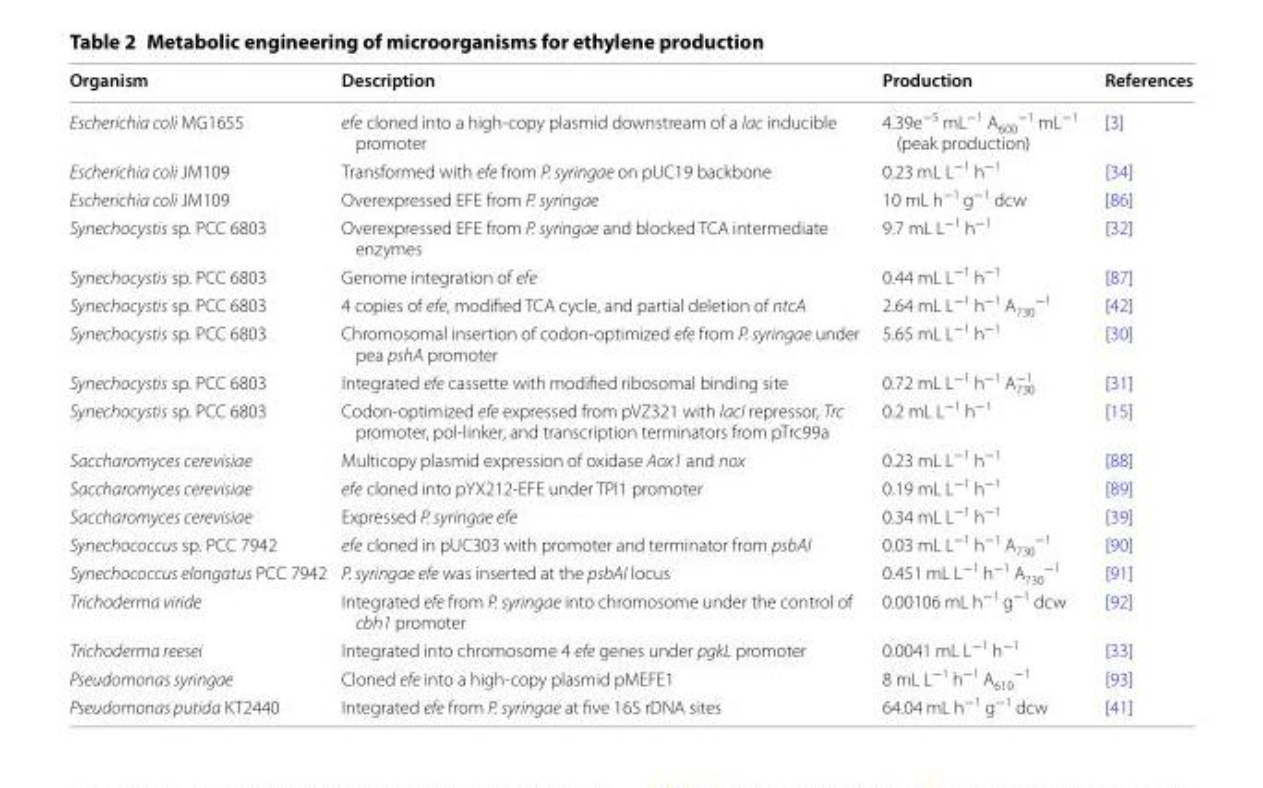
<table><thead><tr><td>Organism</td><td>Description</td><td>Production</td><td>References</td></tr></thead><tbody><tr><td>Escherichia coli MG1655</td><td>efe cloned into a high-copy plasmid downstream of a lac inducible promoter</td><td>4.39e<sup>−5</sup> mL<sup>−1</sup> A<sub>600</sub> <sup>−1</sup> mL<sup>−1</sup> (peak production)</td><td>[3]</td></tr><tr><td>Escherichia coli JM109</td><td>Transformed with efe from P. syringae on pUC19 backbone</td><td>0.23 mL L<sup>−1</sup> h<sup>−1</sup></td><td>[34]</td></tr><tr><td>Escherichia coli JM109</td><td>Overexpressed EFE from P. syringae</td><td>10 mL h<sup>−1</sup> g<sup>−1</sup> dcw</td><td>[86]</td></tr><tr><td>Synechocystis sp. PCC 6803</td><td>Overexpressed EFE from P. syringae and blocked TCA intermediate enzymes</td><td>9.7 mL L<sup>−1</sup> h<sup>−1</sup></td><td>[32]</td></tr><tr><td>Synechocystis sp. PCC 6803</td><td>Genome integration of efe</td><td>0.44 mL L<sup>−1</sup> h<sup>−1</sup></td><td>[87]</td></tr><tr><td>Synechocystis sp. PCC 6803</td><td>4 copies of efe, modified TCA cycle, and partial deletion of ntcA</td><td>2.64 mL L<sup>−1</sup> h<sup>−1</sup> A<sub>730</sub> <sup>−1</sup></td><td>[42]</td></tr><tr><td>Synechocystis sp. PCC 6803</td><td>Chromosomal insertion of codon-optimized efe from P. syringae under pea pshA promoter</td><td>5.65 mL L<sup>−1</sup> h<sup>−1</sup></td><td>[30]</td></tr><tr><td>Synechocystis sp. PCC 6803</td><td>Integrated efe cassette with modified ribosomal binding site</td><td>0.72 mL L−1 h−1 A−1 730</td><td>[31]</td></tr><tr><td>Synechocystis sp. PCC 6803</td><td>Codon-optimized efe expressed from pVZ321 with lacI repressor, Trc promoter, pol-linker, and transcription terminators from pTrc99a</td><td>0.2 mL L<sup>−1</sup> h<sup>−1</sup></td><td>[15]</td></tr><tr><td>Saccharomyces cerevisiae</td><td>Multicopy plasmid expression of oxidase Aox1 and nox</td><td>0.23 mL L<sup>−1</sup> h<sup>−1</sup></td><td>[88]</td></tr><tr><td>Saccharomyces cerevisiae</td><td>efe cloned into pYX212-EFE under TPI1 promoter</td><td>0.19 mL L<sup>−1</sup> h<sup>−1</sup></td><td>[89]</td></tr><tr><td>Saccharomyces cerevisiae</td><td>Expressed P. syringae efe</td><td>0.34 mL L<sup>−1</sup> h<sup>−1</sup></td><td>[39]</td></tr><tr><td>Synechococcus sp. PCC 7942</td><td>efe cloned in pUC303 with promoter and terminator from psbAI</td><td>0.03 mL L<sup>−1</sup> h<sup>−1</sup> A<sub>730</sub> <sup>−1</sup></td><td>[90]</td></tr><tr><td>Synechococcus elongatus PCC 7942</td><td>P. syringae efe was inserted at the psbAI locus</td><td>0.451 mL L<sup>−1</sup> h<sup>−1</sup> A<sub>730</sub> <sup>−1</sup></td><td>[91]</td></tr><tr><td>Trichoderma viride</td><td>Integrated efe from P. syringae into chromosome under the control of cbh1 promoter</td><td>0.00106 mL h<sup>−1</sup> g<sup>−1</sup> dcw</td><td>[92]</td></tr><tr><td>Trichoderma reesei</td><td>Integrated into chromosome 4 efe genes under pgkL promoter</td><td>0.0041 mL L<sup>−1</sup> h<sup>−1</sup></td><td>[33]</td></tr><tr><td>Pseudomonas syringae</td><td>Cloned efe into a high-copy plasmid pMEFE1</td><td>8 mL L<sup>−1</sup> h<sup>−1</sup> A<sub>610</sub> <sup>−1</sup></td><td>[93]</td></tr><tr><td>Pseudomonas putida KT2440</td><td>Integrated efe from P. syringae at five 16S rDNA sites</td><td>64.04 mL h<sup>−1</sup> g<sup>−1</sup> dcw</td><td>[41]</td></tr></tbody></table>